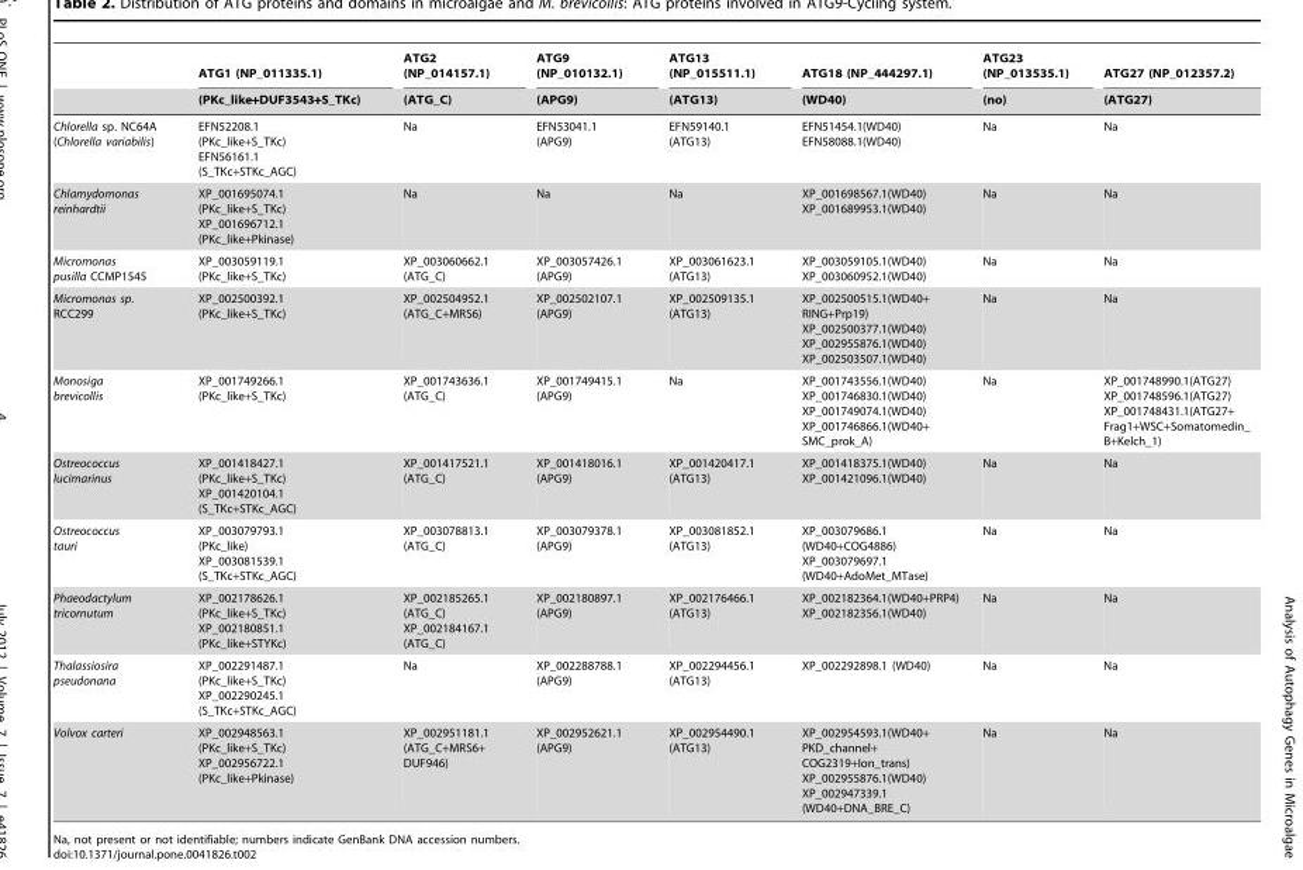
<table><thead><tr><td rowspan="2"></td><td rowspan="2">ATG1 (NP_011335.1) (PKc_like+DUF3543+S_TKc)</td><td rowspan="2">ATG2 (NP_014157.1) (ATG_C)</td><td rowspan="2">ATG9 (NP_010132.1) (APG9)</td><td rowspan="2">ATG13 (NP_015511.1) (ATG13)</td><td rowspan="2">ATG18 (NP_444297.1) (WD40)</td><td rowspan="2">ATG23 (NP_013535.1) (no)</td><td rowspan="2">ATG27 (NP_012357.2) (ATG27)</td></tr><tr></tr></thead><tbody><tr><td>Chlorella sp. NC64A (Chlorella variabilis)</td><td>EFN52208.1 (PKc_like+S_TKc) EFN56161.1 (S_TKc+STKc_AGC)</td><td>Na</td><td>EFN53041.1 (APG9)</td><td>EFN59140.1 (ATG13)</td><td>EFN51454.1(WD40) EFN58088.1(WD40)</td><td>Na</td><td>Na</td></tr><tr><td>Chlamydomonas reinhardtii</td><td>XP_001695074.1 (PKc_like+S_TKc) XP_001696712.1 (PKc_like+Pkinase)</td><td>Na</td><td>Na</td><td>Na</td><td>XP_001698567.1(WD40) XP_001689953.1(WD40)</td><td>Na</td><td>Na</td></tr><tr><td>Micromonas pusilla CCMP1545</td><td>XP_003059119.1 (PKc_like+S_TKc)</td><td>XP_003060662.1 (ATG_C)</td><td>XP_003057426.1 (APG9)</td><td>XP_003061623.1 (ATG13)</td><td>XP_003059105.1(WD40) XP_003060952.1(WD40)</td><td>Na</td><td>Na</td></tr><tr><td>Micromonas sp. RCC299</td><td>XP_002500392.1 (PKc_like+S_TKc)</td><td>XP_002504952.1 (ATG_C+MRS6)</td><td>XP_002502107.1 (APG9)</td><td>XP_002509135.1 (ATG13)</td><td>XP_002500515.1(WD40+ RING+Prp19) XP_002500377.1(WD40) XP_002955876.1(WD40) XP_002503507.1(WD40)</td><td>Na</td><td>Na</td></tr><tr><td>Monosiga brevicollis</td><td>XP_001749266.1 (PKc_like+S_TKc)</td><td>XP_001743636.1 (ATG_C)</td><td>XP_001749415.1 (APG9)</td><td>Na</td><td>XP_001743556.1(WD40) XP_001746830.1(WD40) XP_001749074.1(WD40) XP_001746866.1(WD40+ SMC_prok_A)</td><td>Na</td><td>XP_001748990.1(ATG27) XP_001748596.1(ATG27) XP_001748431.1(ATG27+ Frag1+WSC+Somatomedin_ B+Kelch_1)</td></tr><tr><td>Ostreococcus lucimarinus</td><td>XP_001418427.1 (PKc_like+S_TKc) XP_001420104.1 (S_TKc+STKc_AGC)</td><td>XP_001417521.1 (ATG_C)</td><td>XP_001418016.1 (APG9)</td><td>XP_001420417.1 (ATG13)</td><td>XP_001418375.1(WD40) XP_001421096.1(WD40)</td><td>Na</td><td>Na</td></tr><tr><td>Ostreococcus tauri</td><td>XP_003079793.1 (PKc_like) XP_003081539.1 (S_TKc+STKc_AGC)</td><td>XP_003078813.1 (ATG_C)</td><td>XP_003079378.1 (APG9)</td><td>XP_003081852.1 (ATG13)</td><td>XP_003079686.1 (WD40+COG4886) XP_003079697.1 (WD40+AdoMet_MTase)</td><td>Na</td><td>Na</td></tr><tr><td>Phaeodactylum tricornutum</td><td>XP_002178626.1 (PKc_like+S_TKc) XP_002180851.1 (PKc_like+STYKc)</td><td>XP_002185265.1 (ATG_C) XP_002184167.1 (ATG_C)</td><td>XP_002180897.1 (APG9)</td><td>XP_002176466.1 (ATG13)</td><td>XP_002182364.1(WD40+PRP4) XP_002182356.1(WD40)</td><td>Na</td><td>Na</td></tr><tr><td>Thalassiosira pseudonana</td><td>XP_002291487.1 (PKc_like+S_TKc) XP_002290245.1 (S_TKc+STKc_AGC)</td><td>Na</td><td>XP_002288788.1 (APG9)</td><td>XP_002294456.1 (ATG13)</td><td>XP_002292898.1 (WD40)</td><td>Na</td><td>Na</td></tr><tr><td>Volvox carteri</td><td>XP_002948563.1 (PKc_like+S_TKc) XP_002956722.1 (PKc_like+Pkinase)</td><td>XP_002951181.1 (ATG_C+MRS6+ DUF946)</td><td>XP_002952621.1 (APG9)</td><td>XP_002954490.1 (ATG13)</td><td>XP_002954593.1(WD40+ PKD_channel+ COG2319+Ion_trans) XP_002955876.1(WD40) XP_002947339.1 (WD40+DNA_BRE_C)</td><td>Na</td><td>Na</td></tr></tbody></table>